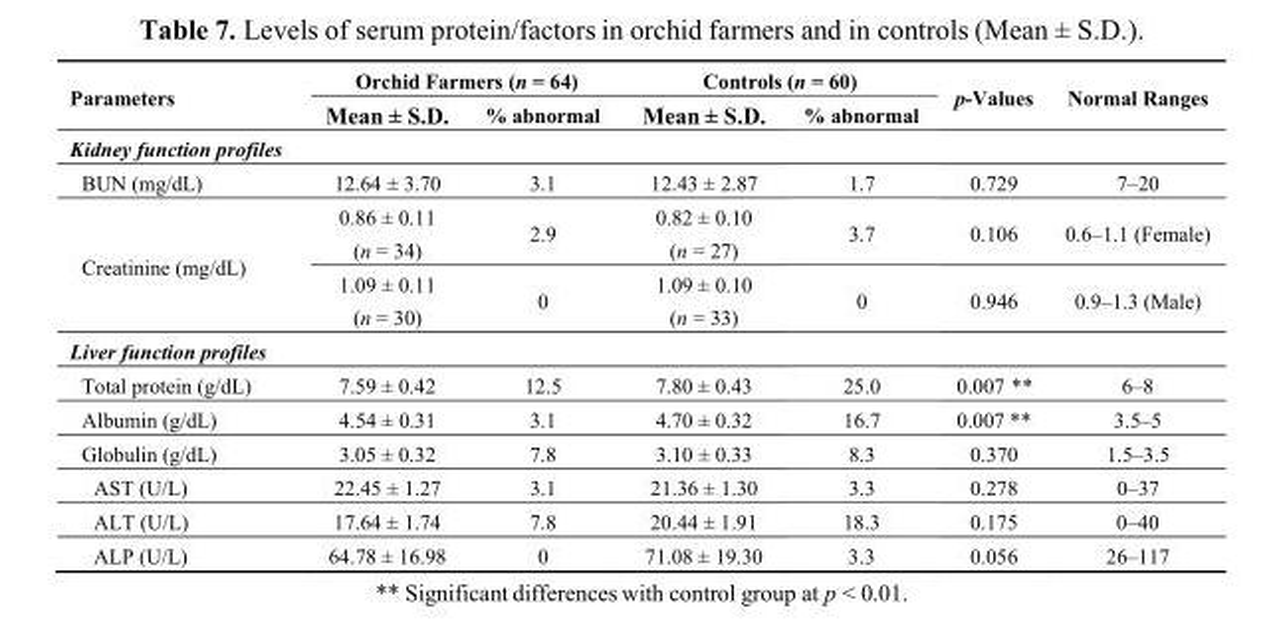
<table><thead><tr><td rowspan="2">Parameters</td><td colspan="2">Orchid Farmers (n = 64)</td><td colspan="2">Controls (n = 60)</td><td rowspan="2">p-Values</td><td rowspan="2">Normal Ranges</td></tr><tr><td>Mean ± S.D.</td><td>% abnormal</td><td>Mean ± S.D.</td><td>% abnormal</td></tr></thead><tbody><tr><td colspan="7">Kidney function profiles</td></tr><tr><td>BUN (mg/dL)</td><td>12.64 ± 3.70</td><td>3.1</td><td>12.43 ± 2.87</td><td>1.7</td><td>0.729</td><td>7–20</td></tr><tr><td rowspan="2">Creatinine (mg/dL)</td><td>0.86 ± 0.11 (n = 34)</td><td>2.9</td><td>0.82 ± 0.10 (n = 27)</td><td>3.7</td><td>0.106</td><td>0.6–1.1 (Female)</td></tr><tr><td>1.09 ± 0.11 (n = 30)</td><td>0</td><td>1.09 ± 0.10 (n = 33)</td><td>0</td><td>0.946</td><td>0.9–1.3 (Male)</td></tr><tr><td colspan="7">Liver function profiles</td></tr><tr><td>Total protein (g/dL)</td><td>7.59 ± 0.42</td><td>12.5</td><td>7.80 ± 0.43</td><td>25.0</td><td>0.007 **</td><td>6–8</td></tr><tr><td>Albumin (g/dL)</td><td>4.54 ± 0.31</td><td>3.1</td><td>4.70 ± 0.32</td><td>16.7</td><td>0.007 **</td><td>3.5–5</td></tr><tr><td>Globulin (g/dL)</td><td>3.05 ± 0.32</td><td>7.8</td><td>3.10 ± 0.33</td><td>8.3</td><td>0.370</td><td>1.5–3.5</td></tr><tr><td>AST (U/L)</td><td>22.45 ± 1.27</td><td>3.1</td><td>21.36 ± 1.30</td><td>3.3</td><td>0.278</td><td>0–37</td></tr><tr><td>ALT (U/L)</td><td>17.64 ± 1.74</td><td>7.8</td><td>20.44 ± 1.91</td><td>18.3</td><td>0.175</td><td>0–40</td></tr><tr><td>ALP (U/L)</td><td>64.78 ± 16.98</td><td>0</td><td>71.08 ± 19.30</td><td>3.3</td><td>0.056</td><td>26–117</td></tr></tbody></table>